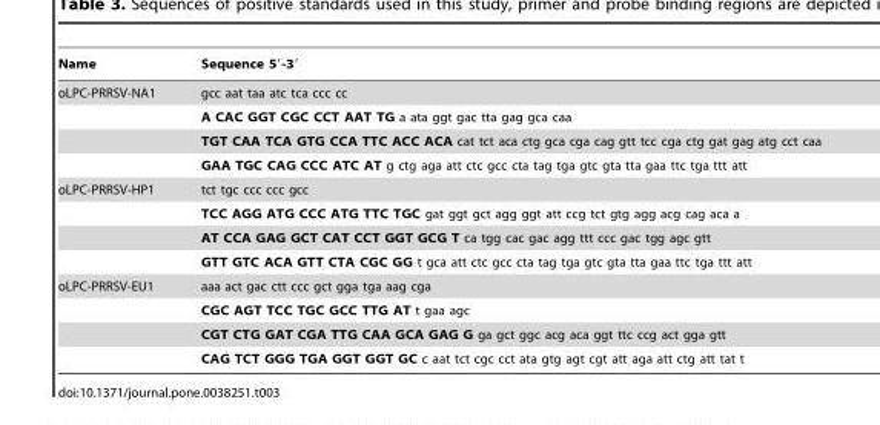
<table><thead><tr><td>Name</td><td>Sequence 5′-3′</td></tr></thead><tbody><tr><td rowspan="4">oLPC-PRRSV-NA1</td><td>gcc aat taa atc tca ccc cc</td></tr><tr><td>A CAC GGT CGC CCT AAT TG a ata ggt gac tta gag gca caa</td></tr><tr><td>TGT CAA TCA GTG CCA TTC ACC ACA cat tct aca ctg gca cga cag gtt tcc cga ctg gat gag atg cct caa</td></tr><tr><td>GAA TGC CAG CCC ATC AT g ctg aga att ctc gcc cta tag tga gtc gta tta gaa ttc tga ttt att</td></tr><tr><td rowspan="4">oLPC-PRRSV-HP1</td><td>tct tgc ccc ccc gcc</td></tr><tr><td>TCC AGG ATG CCC ATG TTC TGC gat ggt gct agg ggt att ccg tct gtg agg acg cag aca a</td></tr><tr><td>AT CCA GAG GCT CAT CCT GGT GCG T ca tgg cac gac agg ttt ccc gac tgg agc gtt</td></tr><tr><td>GTT GTC ACA GTT CTA CGC GG t gca att ctc gcc cta tag tga gtc gta tta gaa ttc tga ttt att</td></tr><tr><td rowspan="4">oLPC-PRRSV-EU1</td><td>aaa act gac ctt ccc gct gga tga aag cga</td></tr><tr><td>CGC AGT TCC TGC GCC TTG AT t gaa agc</td></tr><tr><td>CGT CTG GAT CGA TTG CAA GCA GAG G ga gct ggc acg aca ggt ttc ccg act gga gtt</td></tr><tr><td>CAG TCT GGG TGA GGT GGT GC c aat tct cgc cct ata gtg agt cgt att aga att ctg att tat t</td></tr></tbody></table>